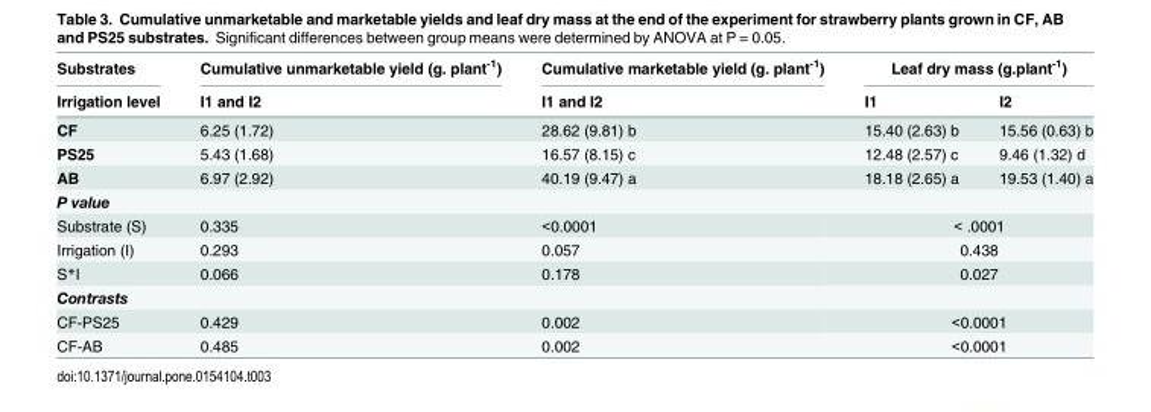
<table><thead><tr><td rowspan="2">Substrates Irrigation level</td><td rowspan="2">Cumulative unmarketable yield (g. plant<sup>-1</sup>) I1 and I2</td><td rowspan="2">Cumulative marketable yield (g. plant<sup>-1</sup>) I1 and I2</td><td colspan="2">Leaf dry mass (g.plant<sup>-1</sup>)</td></tr><tr><td>I1</td><td>I2</td></tr></thead><tbody><tr><td>CF</td><td>6.25 (1.72)</td><td>28.62 (9.81) b</td><td>15.40 (2.63) b</td><td>15.56 (0.63) b</td></tr><tr><td>PS25</td><td>5.43 (1.68)</td><td>16.57 (8.15) c</td><td>12.48 (2.57) c</td><td>9.46 (1.32) d</td></tr><tr><td>AB</td><td>6.97 (2.92)</td><td>40.19 (9.47) a</td><td>18.18 (2.65) a</td><td>19.53 (1.40) a</td></tr><tr><td colspan="5">P value</td></tr><tr><td>Substrate (S)</td><td>0.335</td><td>&lt;0.0001</td><td colspan="2">&lt; .0001</td></tr><tr><td>Irrigation (I)</td><td>0.293</td><td>0.057</td><td colspan="2">0.438</td></tr><tr><td>S*I</td><td>0.066</td><td>0.178</td><td colspan="2">0.027</td></tr><tr><td colspan="5">Contrasts</td></tr><tr><td>CF-PS25</td><td>0.429</td><td>0.002</td><td colspan="2">&lt;0.0001</td></tr><tr><td>CF-AB</td><td>0.485</td><td>0.002</td><td colspan="2">&lt;0.0001</td></tr></tbody></table>